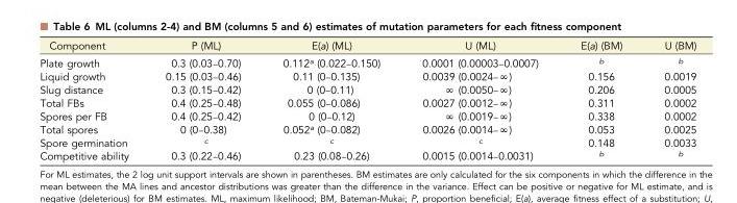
<table><thead><tr><td>Component</td><td>P (ML)</td><td>E(a) (ML)</td><td>U (ML)</td><td>E(a) (BM)</td><td>U (BM)</td></tr></thead><tbody><tr><td>Plate growth</td><td>0.3 (0.03–0.70)</td><td>0.112<sup>a</sup> (0.022–0.150)</td><td>0.0001 (0.00003–0.0007)</td><td><sup>b</sup></td><td><sup>b</sup></td></tr><tr><td>Liquid growth</td><td>0.15 (0.03–0.46)</td><td>0.11 (0–0.135)</td><td>0.0039 (0.0024–∞)</td><td>0.156</td><td>0.0019</td></tr><tr><td>Slug distance</td><td>0.3 (0.15–0.42)</td><td>0 (0–0.11)</td><td>∞ (0.0050–∞)</td><td>0.206</td><td>0.0005</td></tr><tr><td>Total FBs</td><td>0.4 (0.25–0.48)</td><td>0.055 (0–0.086)</td><td>0.0027 (0.0012–∞)</td><td>0.311</td><td>0.0002</td></tr><tr><td>Spores per FB</td><td>0.4 (0.25–0.42)</td><td>0 (0–0.12)</td><td>∞ (0.0019–∞)</td><td>0.338</td><td>0.0002</td></tr><tr><td>Total spores</td><td>0 (0–0.38)</td><td>0.052<sup>a</sup> (0–0.082)</td><td>0.0026 (0.0014–∞)</td><td>0.053</td><td>0.0025</td></tr><tr><td>Spore germination</td><td><sup>c</sup></td><td><sup>c</sup></td><td><sup>c</sup></td><td>0.148</td><td>0.0033</td></tr><tr><td>Competitive ability</td><td>0.3 (0.22–0.46)</td><td>0.23 (0.08–0.26)</td><td>0.0015 (0.0014–0.0031)</td><td><sup>b</sup></td><td><sup>b</sup></td></tr></tbody></table>